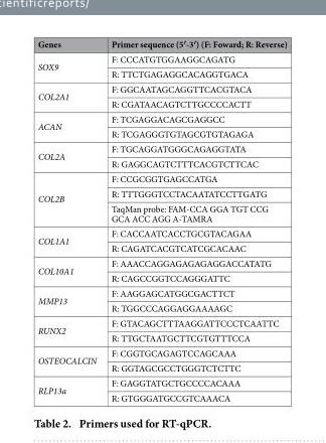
<table><thead><tr><td>Genes</td><td>Primer sequence (5′-3′) (F: Foward; R: Reverse)</td></tr></thead><tbody><tr><td rowspan="2">SOX9</td><td>F: CCCATGTGGAAGGCAGATG</td></tr><tr><td>R: TTCTGAGAGGCACAGGTGACA</td></tr><tr><td rowspan="2">COL2A1</td><td>F: GGCAATAGCAGGTTCACGTACA</td></tr><tr><td>R: CGATAACAGTCTTGCCCCACTT</td></tr><tr><td rowspan="2">ACAN</td><td>F: TCGAGGACAGCGAGGCC</td></tr><tr><td>R: TCGAGGGTGTAGCGTGTAGAGA</td></tr><tr><td rowspan="2">COL2A</td><td>F: TGCAGGATGGGCAGAGGTATA</td></tr><tr><td>R: GAGGCAGTCTTTCACGTCTTCAC</td></tr><tr><td rowspan="3">COL2B</td><td>F: CCGCGGTGAGCCATGA</td></tr><tr><td>R: TTTGGGTCCTACAATATCCTTGATG</td></tr><tr><td>TaqMan probe: FAM-CCA GGA TGT CCG GCA ACC AGG A-TAMRA</td></tr><tr><td rowspan="2">COL1A1</td><td>F: CACCAATCACCTGCGTACAGAA</td></tr><tr><td>R: CAGATCACGTCATCGCACAAC</td></tr><tr><td rowspan="2">COL10A1</td><td>F: AAACCAGGAGAGAGAGGACCATATG</td></tr><tr><td>R: CAGCCGGTCCAGGGATTC</td></tr><tr><td rowspan="2">MMP13</td><td>F: AAGGAGCATGGCGACTTCT</td></tr><tr><td>R: TGGCCCAGGAGGAAAAGC</td></tr><tr><td rowspan="2">RUNX2</td><td>F: GTACAGCTTTAAGGATTCCCTCAATTC</td></tr><tr><td>R: TTGCTAATGCTTCGTGTTTCCA</td></tr><tr><td rowspan="2">OSTEOCALCIN</td><td>F: CGGTGCAGAGTCCAGCAAA</td></tr><tr><td>R: GGTAGCGCCTGGGTCTCTTC</td></tr><tr><td rowspan="2">RLP13a</td><td>F: GAGGTATGCTGCCCCACAAA</td></tr><tr><td>R: GTGGGATGCCGTCAAACA</td></tr></tbody></table>